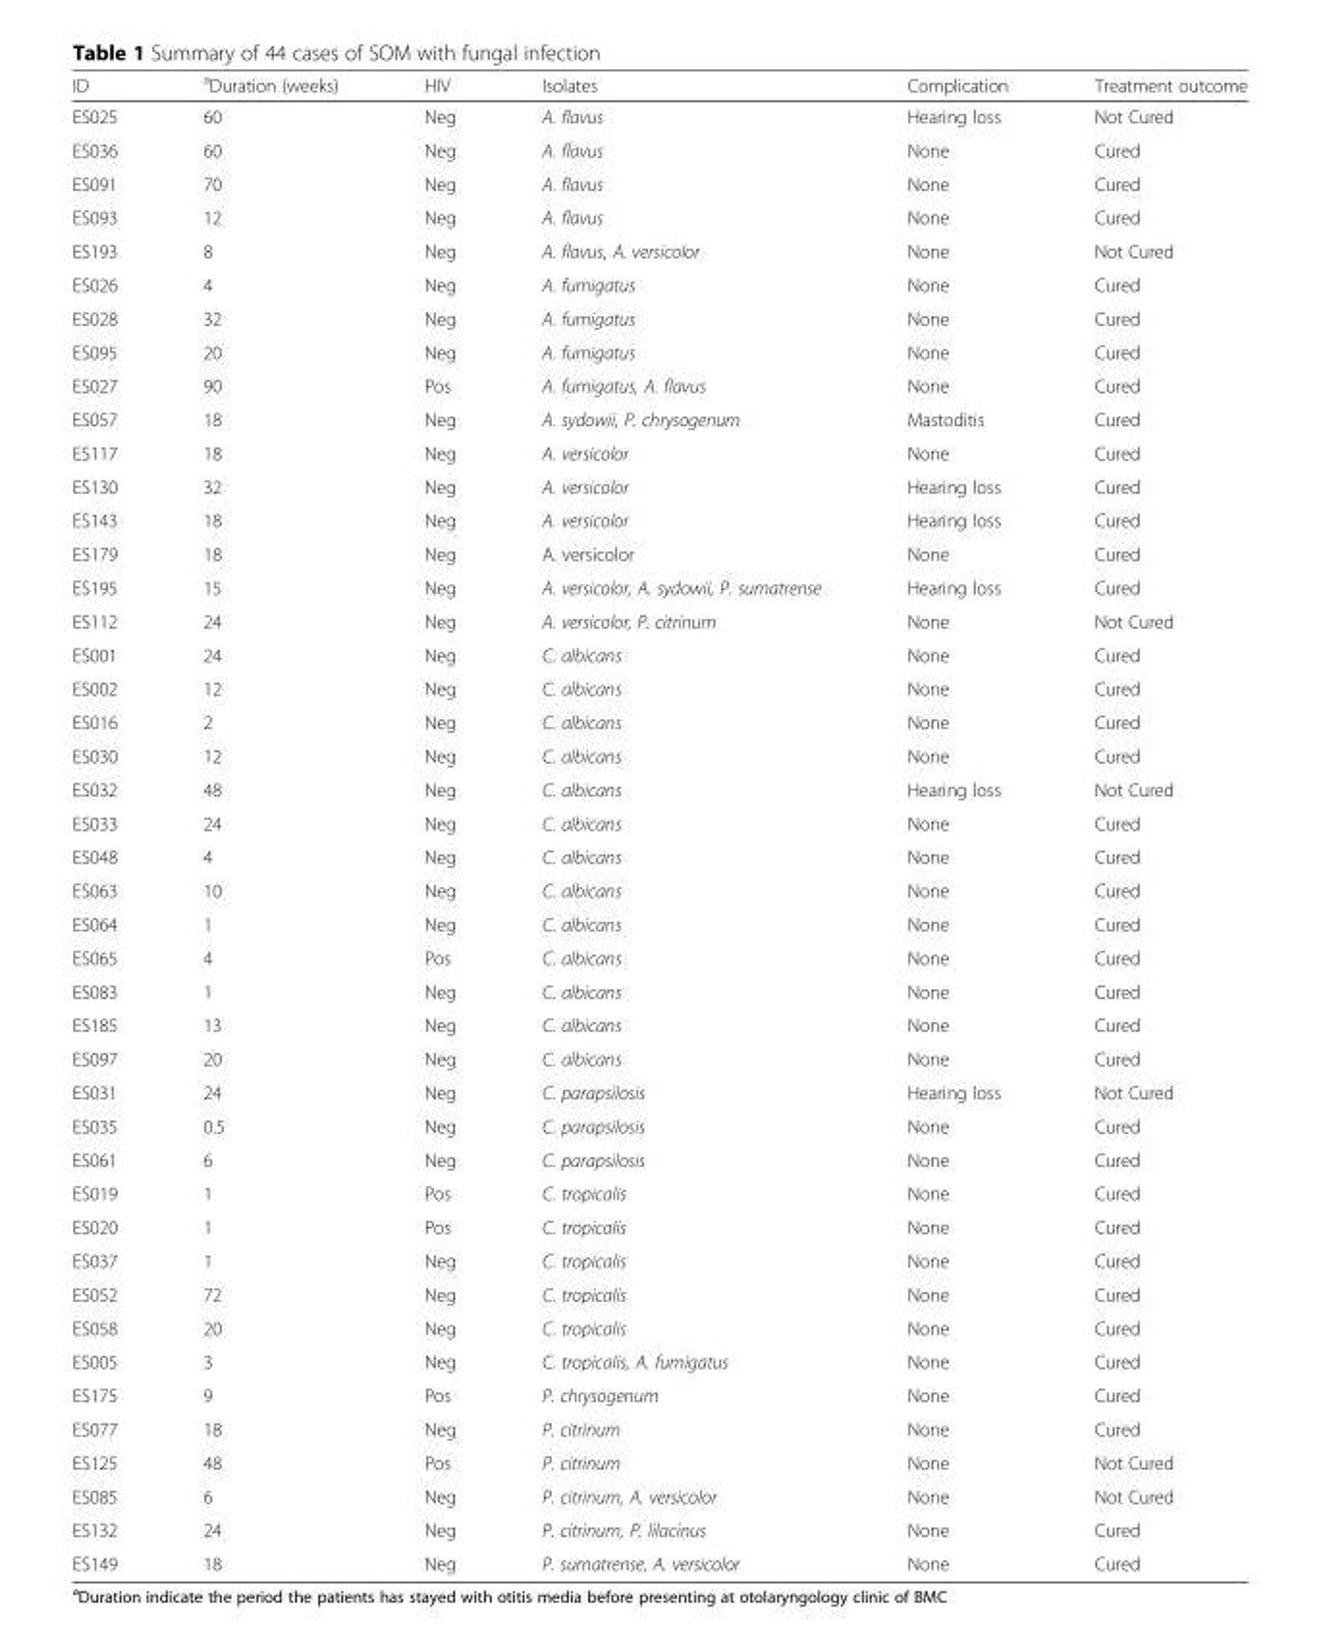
<table><thead><tr><td>ID</td><td><sup>a</sup>Duration (weeks)</td><td>HIV</td><td>Isolates</td><td>Complication</td><td>Treatment outcome</td></tr></thead><tbody><tr><td>ES025</td><td>60</td><td>Neg</td><td>A. flavus</td><td>Hearing loss</td><td>Not Cured</td></tr><tr><td>ES036</td><td>60</td><td>Neg</td><td>A. flavus</td><td>None</td><td>Cured</td></tr><tr><td>ES091</td><td>70</td><td>Neg</td><td>A. flavus</td><td>None</td><td>Cured</td></tr><tr><td>ES093</td><td>12</td><td>Neg</td><td>A. flavus</td><td>None</td><td>Cured</td></tr><tr><td>ES193</td><td>8</td><td>Neg</td><td>A. flavus, A. versicolor</td><td>None</td><td>Not Cured</td></tr><tr><td>ES026</td><td>4</td><td>Neg</td><td>A. fumigatus</td><td>None</td><td>Cured</td></tr><tr><td>ES028</td><td>32</td><td>Neg</td><td>A. fumigatus</td><td>None</td><td>Cured</td></tr><tr><td>ES095</td><td>20</td><td>Neg</td><td>A. fumigatus</td><td>None</td><td>Cured</td></tr><tr><td>ES027</td><td>90</td><td>Pos</td><td>A. fumigatus, A. flavus</td><td>None</td><td>Cured</td></tr><tr><td>ES057</td><td>18</td><td>Neg</td><td>A. sydowii, P. chrysogenum</td><td>Mastoditis</td><td>Cured</td></tr><tr><td>ES117</td><td>18</td><td>Neg</td><td>A. versicolor</td><td>None</td><td>Cured</td></tr><tr><td>ES130</td><td>32</td><td>Neg</td><td>A. versicolor</td><td>Hearing loss</td><td>Cured</td></tr><tr><td>ES143</td><td>18</td><td>Neg</td><td>A. versicolor</td><td>Hearing loss</td><td>Cured</td></tr><tr><td>ES179</td><td>18</td><td>Neg</td><td>A. versicolor</td><td>None</td><td>Cured</td></tr><tr><td>ES195</td><td>15</td><td>Neg</td><td>A. versicolor, A. sydowii, P. sumatrense</td><td>Hearing loss</td><td>Cured</td></tr><tr><td>ES112</td><td>24</td><td>Neg</td><td>A. versicolor, P. citrinum</td><td>None</td><td>Not Cured</td></tr><tr><td>ES001</td><td>24</td><td>Neg</td><td>C. albicans</td><td>None</td><td>Cured</td></tr><tr><td>ES002</td><td>12</td><td>Neg</td><td>C. albicans</td><td>None</td><td>Cured</td></tr><tr><td>ES016</td><td>2</td><td>Neg</td><td>C. albicans</td><td>None</td><td>Cured</td></tr><tr><td>ES030</td><td>12</td><td>Neg</td><td>C. albicans</td><td>None</td><td>Cured</td></tr><tr><td>ES032</td><td>48</td><td>Neg</td><td>C. albicans</td><td>Hearing loss</td><td>Not Cured</td></tr><tr><td>ES033</td><td>24</td><td>Neg</td><td>C. albicans</td><td>None</td><td>Cured</td></tr><tr><td>ES048</td><td>4</td><td>Neg</td><td>C. albicans</td><td>None</td><td>Cured</td></tr><tr><td>ES063</td><td>10</td><td>Neg</td><td>C. albicans</td><td>None</td><td>Cured</td></tr><tr><td>ES064</td><td>1</td><td>Neg</td><td>C. albicans</td><td>None</td><td>Cured</td></tr><tr><td>ES065</td><td>4</td><td>Pos</td><td>C. albicans</td><td>None</td><td>Cured</td></tr><tr><td>ES083</td><td>1</td><td>Neg</td><td>C. albicans</td><td>None</td><td>Cured</td></tr><tr><td>ES185</td><td>13</td><td>Neg</td><td>C. albicans</td><td>None</td><td>Cured</td></tr><tr><td>ES097</td><td>20</td><td>Neg</td><td>C. albicans</td><td>None</td><td>Cured</td></tr><tr><td>ES031</td><td>24</td><td>Neg</td><td>C. parapsilosis</td><td>Hearing loss</td><td>Not Cured</td></tr><tr><td>ES035</td><td>0.5</td><td>Neg</td><td>C. parapsilosis</td><td>None</td><td>Cured</td></tr><tr><td>ES061</td><td>6</td><td>Neg</td><td>C. parapsilosis</td><td>None</td><td>Cured</td></tr><tr><td>ES019</td><td>1</td><td>Pos</td><td>C. tropicalis</td><td>None</td><td>Cured</td></tr><tr><td>ES020</td><td>1</td><td>Pos</td><td>C. tropicalis</td><td>None</td><td>Cured</td></tr><tr><td>ES037</td><td>1</td><td>Neg</td><td>C. tropicalis</td><td>None</td><td>Cured</td></tr><tr><td>ES052</td><td>72</td><td>Neg</td><td>C. tropicalis</td><td>None</td><td>Cured</td></tr><tr><td>ES058</td><td>20</td><td>Neg</td><td>C. tropicalis</td><td>None</td><td>Cured</td></tr><tr><td>ES005</td><td>3</td><td>Neg</td><td>C. tropicalis, A. fumigatus</td><td>None</td><td>Cured</td></tr><tr><td>ES175</td><td>9</td><td>Pos</td><td>P. chrysogenum</td><td>None</td><td>Cured</td></tr><tr><td>ES077</td><td>18</td><td>Neg</td><td>P. citrinum</td><td>None</td><td>Cured</td></tr><tr><td>ES125</td><td>48</td><td>Pos</td><td>P. citrinum</td><td>None</td><td>Not Cured</td></tr><tr><td>ES085</td><td>6</td><td>Neg</td><td>P. citrinum, A. versicolor</td><td>None</td><td>Not Cured</td></tr><tr><td>ES132</td><td>24</td><td>Neg</td><td>P. citrinum, P. lilacinus</td><td>None</td><td>Cured</td></tr><tr><td>ES149</td><td>18</td><td>Neg</td><td>P. sumatrense, A. versicolor</td><td>None</td><td>Cured</td></tr></tbody></table>